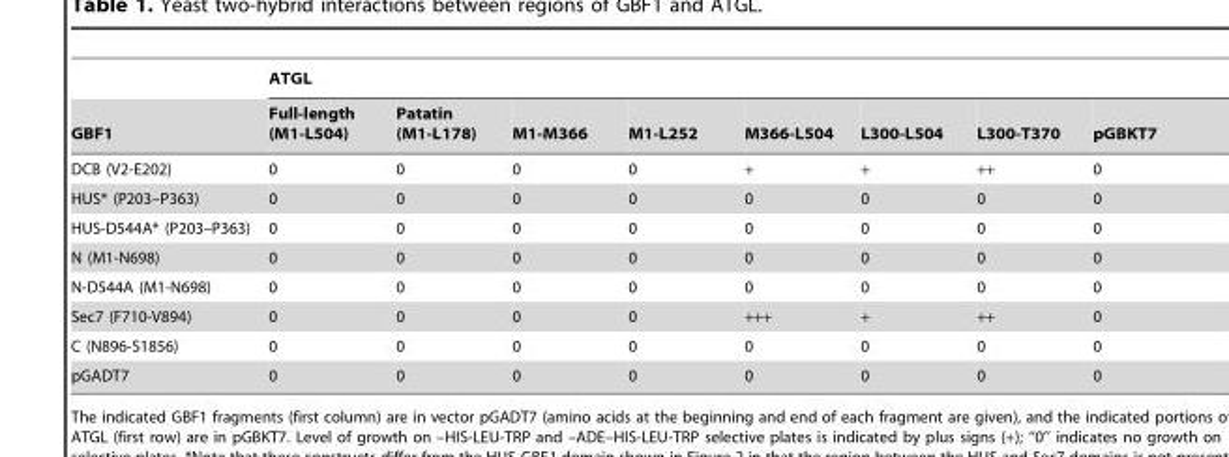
<table><thead><tr><td rowspan="2">GBF1</td><td colspan="8">ATGL</td></tr><tr><td>Full-length (M1-L504)</td><td>Patatin (M1-L178)</td><td>M1-M366</td><td>M1-L252</td><td>M366-L504</td><td>L300-L504</td><td>L300-T370</td><td>pGBKT7</td></tr></thead><tbody><tr><td>DCB (V2-E202)</td><td>0</td><td>0</td><td>0</td><td>0</td><td>+</td><td>+</td><td>++</td><td>0</td></tr><tr><td>HUS* (P203–P363)</td><td>0</td><td>0</td><td>0</td><td>0</td><td>0</td><td>0</td><td>0</td><td>0</td></tr><tr><td>HUS-D544A* (P203–P363)</td><td>0</td><td>0</td><td>0</td><td>0</td><td>0</td><td>0</td><td>0</td><td>0</td></tr><tr><td>N (M1-N698)</td><td>0</td><td>0</td><td>0</td><td>0</td><td>0</td><td>0</td><td>0</td><td>0</td></tr><tr><td>N-D544A (M1-N698)</td><td>0</td><td>0</td><td>0</td><td>0</td><td>0</td><td>0</td><td>0</td><td>0</td></tr><tr><td>Sec7 (F710-V894)</td><td>0</td><td>0</td><td>0</td><td>0</td><td>+++</td><td>+</td><td>++</td><td>0</td></tr><tr><td>C (N896-S1856)</td><td>0</td><td>0</td><td>0</td><td>0</td><td>0</td><td>0</td><td>0</td><td>0</td></tr><tr><td>pGADT7</td><td>0</td><td>0</td><td>0</td><td>0</td><td>0</td><td>0</td><td>0</td><td>0</td></tr></tbody></table>